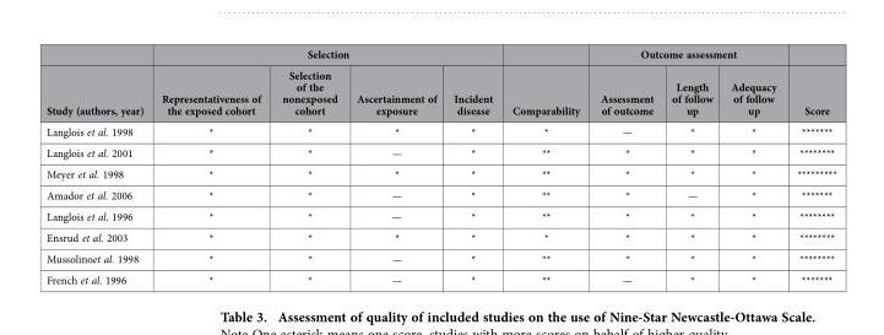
<table><thead><tr><td rowspan="2">Study (authors, year)</td><td colspan="4">Selection</td><td rowspan="2">Comparability</td><td colspan="3">Outcome assessment</td><td rowspan="2">Score</td></tr><tr><td>Representativeness of the exposed cohort</td><td>Selection of the nonexposed cohort</td><td>Ascertainment of exposure</td><td>Incident disease</td><td>Assessment of outcome</td><td>Length of follow up</td><td>Adequacy of follow up</td></tr></thead><tbody><tr><td>Langlois et al. 1998</td><td>*</td><td>*</td><td>*</td><td>*</td><td>*</td><td>—</td><td>*</td><td>*</td><td>*******</td></tr><tr><td>Langlois et al. 2001</td><td>*</td><td>*</td><td>—</td><td>*</td><td>**</td><td>*</td><td>*</td><td>*</td><td>********</td></tr><tr><td>Meyer et al. 1998</td><td>*</td><td>*</td><td>*</td><td>*</td><td>**</td><td>*</td><td>*</td><td>*</td><td>*********</td></tr><tr><td>Amador et al. 2006</td><td>*</td><td>*</td><td>—</td><td>*</td><td>**</td><td>*</td><td>—</td><td>*</td><td>*******</td></tr><tr><td>Langlois et al. 1996</td><td>*</td><td>*</td><td>—</td><td>*</td><td>**</td><td>*</td><td>*</td><td>*</td><td>********</td></tr><tr><td>Ensrud et al. 2003</td><td>*</td><td>*</td><td>*</td><td>*</td><td>*</td><td>*</td><td>*</td><td>*</td><td>********</td></tr><tr><td>Mussolinoet al. 1998</td><td>*</td><td>*</td><td>—</td><td>*</td><td>**</td><td>*</td><td>*</td><td>*</td><td>********</td></tr><tr><td>French et al. 1996</td><td>*</td><td>*</td><td>—</td><td>*</td><td>**</td><td>—</td><td>*</td><td>*</td><td>*******</td></tr></tbody></table>